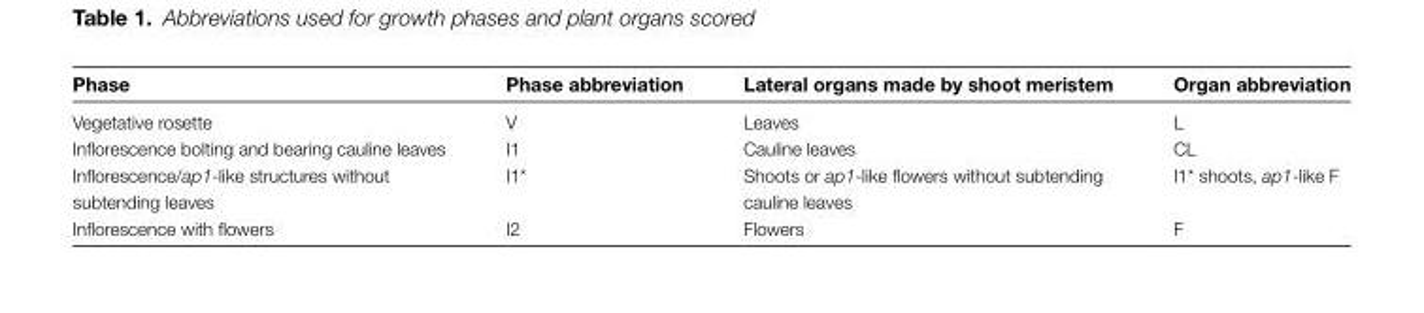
<table><thead><tr><td>Phase</td><td>Phase abbreviation</td><td>Lateral organs made by shoot meristem</td><td>Organ abbreviation</td></tr></thead><tbody><tr><td>Vegetative rosette</td><td>V</td><td>Leaves</td><td>L</td></tr><tr><td>Inflorescence bolting and bearing cauline leaves</td><td>I1</td><td>Cauline leaves</td><td>CL</td></tr><tr><td>Inflorescence/ap1-like structures without subtending leaves</td><td>I1*</td><td>Shoots or ap1-like flowers without subtending cauline leaves</td><td>I1* shoots, ap1-like F</td></tr><tr><td>Inflorescence with flowers</td><td>I2</td><td>Flowers</td><td>F</td></tr></tbody></table>